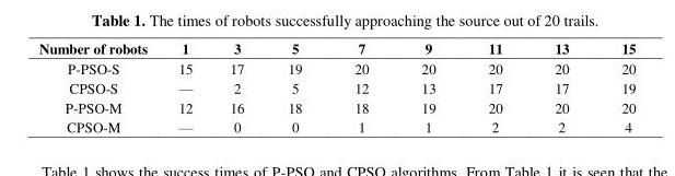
<table><thead><tr><td>Number of robots</td><td>1</td><td>3</td><td>5</td><td>7</td><td>9</td><td>11</td><td>13</td><td>15</td></tr></thead><tbody><tr><td>P-PSO-S</td><td>15</td><td>17</td><td>19</td><td>20</td><td>20</td><td>20</td><td>20</td><td>20</td></tr><tr><td>CPSO-S</td><td>—</td><td>2</td><td>5</td><td>12</td><td>13</td><td>17</td><td>17</td><td>19</td></tr><tr><td>P-PSO-M</td><td>12</td><td>16</td><td>18</td><td>18</td><td>19</td><td>20</td><td>20</td><td>20</td></tr><tr><td>CPSO-M</td><td>—</td><td>0</td><td>0</td><td>1</td><td>1</td><td>2</td><td>2</td><td>4</td></tr></tbody></table>